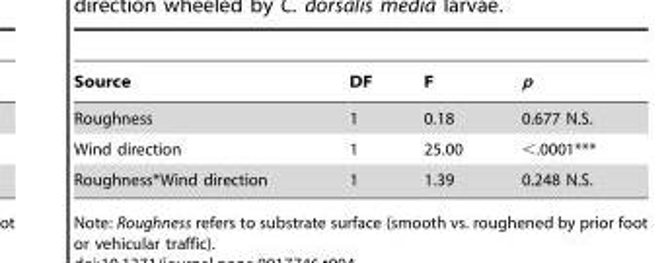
<table><thead><tr><td>Source</td><td>DF</td><td>F</td><td>p</td></tr></thead><tbody><tr><td>Roughness</td><td>1</td><td>0.18</td><td>0.677 N.S.</td></tr><tr><td>Wind direction</td><td>1</td><td>25.00</td><td>&lt;.0001***</td></tr><tr><td>Roughness*Wind direction</td><td>1</td><td>1.39</td><td>0.248 N.S.</td></tr></tbody></table>